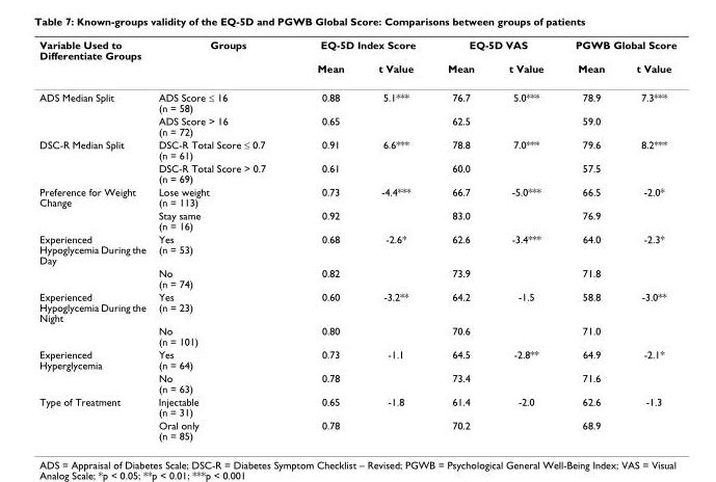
<table><thead><tr><td rowspan="2">Variable Used to Differentiate Groups</td><td rowspan="2">Groups</td><td colspan="2">EQ-5D Index Score</td><td colspan="2">EQ-5D VAS</td><td colspan="2">PGWB Global Score</td></tr><tr><td>Mean</td><td>t Value</td><td>Mean</td><td>t Value</td><td>Mean</td><td>t Value</td></tr></thead><tbody><tr><td rowspan="2">ADS Median Split</td><td>ADS Score ≤ 16 (n = 58)</td><td>0.88</td><td>5.1***</td><td>76.7</td><td>5.0***</td><td>78.9</td><td>7.3***</td></tr><tr><td>ADS Score &gt; 16 (n = 72)</td><td>0.65</td><td></td><td>62.5</td><td></td><td>59.0</td><td></td></tr><tr><td rowspan="2">DSC-R Median Split</td><td>DSC-R Total Score ≤ 0.7 (n = 61)</td><td>0.91</td><td>6.6***</td><td>78.8</td><td>7.0***</td><td>79.6</td><td>8.2***</td></tr><tr><td>DSC-R Total Score &gt; 0.7 (n = 69)</td><td>0.61</td><td></td><td>60.0</td><td></td><td>57.5</td><td></td></tr><tr><td rowspan="2">Preference for Weight Change</td><td>Lose weight (n = 113)</td><td>0.73</td><td>-4.4***</td><td>66.7</td><td>-5.0***</td><td>66.5</td><td>-2.0*</td></tr><tr><td>Stay same (n = 16)</td><td>0.92</td><td></td><td>83.0</td><td></td><td>76.9</td><td></td></tr><tr><td rowspan="2">Experienced Hypoglycemia During the Day</td><td>Yes (n = 53)</td><td>0.68</td><td>-2.6*</td><td>62.6</td><td>-3.4***</td><td>64.0</td><td>-2.3*</td></tr><tr><td>No (n = 74)</td><td>0.82</td><td></td><td>73.9</td><td></td><td>71.8</td><td></td></tr><tr><td rowspan="2">Experienced Hypoglycemia During the Night</td><td>Yes (n = 23)</td><td>0.60</td><td>-3.2**</td><td>64.2</td><td>-1.5</td><td>58.8</td><td>-3.0**</td></tr><tr><td>No (n = 101)</td><td>0.80</td><td></td><td>70.6</td><td></td><td>71.0</td><td></td></tr><tr><td rowspan="2">Experienced Hyperglycemia</td><td>Yes (n = 64)</td><td>0.73</td><td>-1.1</td><td>64.5</td><td>-2.8**</td><td>64.9</td><td>-2.1*</td></tr><tr><td>No (n = 63)</td><td>0.78</td><td></td><td>73.4</td><td></td><td>71.6</td><td></td></tr><tr><td rowspan="2">Type of Treatment</td><td>Injectable (n = 31)</td><td>0.65</td><td>-1.8</td><td>61.4</td><td>-2.0</td><td>62.6</td><td>-1.3</td></tr><tr><td>Oral only (n = 85)</td><td>0.78</td><td></td><td>70.2</td><td></td><td>68.9</td><td></td></tr></tbody></table>